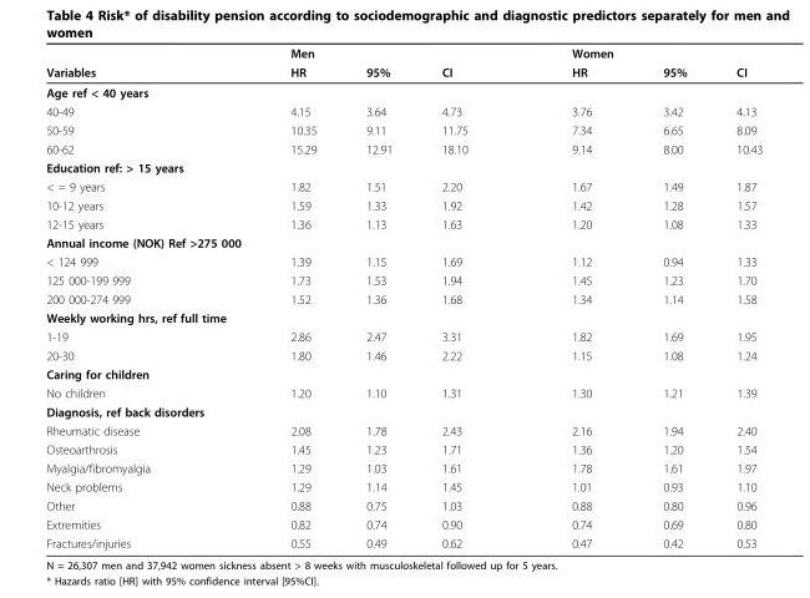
<table><thead><tr><td rowspan="2">Variables</td><td rowspan="2">Men HR</td><td rowspan="2">95%</td><td rowspan="2">CI</td><td rowspan="2">Women HR</td><td rowspan="2">95%</td><td rowspan="2">CI</td></tr><tr></tr></thead><tbody><tr><td colspan="7">Age ref &lt; 40 years</td></tr><tr><td>40-49</td><td>4.15</td><td>3.64</td><td>4.73</td><td>3.76</td><td>3.42</td><td>4.13</td></tr><tr><td>50-59</td><td>10.35</td><td>9.11</td><td>11.75</td><td>7.34</td><td>6.65</td><td>8.09</td></tr><tr><td>60-62</td><td>15.29</td><td>12.91</td><td>18.10</td><td>9.14</td><td>8.00</td><td>10.43</td></tr><tr><td colspan="7">Education ref: &gt; 15 years</td></tr><tr><td>&lt; = 9 years</td><td>1.82</td><td>1.51</td><td>2.20</td><td>1.67</td><td>1.49</td><td>1.87</td></tr><tr><td>10-12 years</td><td>1.59</td><td>1.33</td><td>1.92</td><td>1.42</td><td>1.28</td><td>1.57</td></tr><tr><td>12-15 years</td><td>1.36</td><td>1.13</td><td>1.63</td><td>1.20</td><td>1.08</td><td>1.33</td></tr><tr><td colspan="7">Annual income (NOK) Ref &gt;275 000</td></tr><tr><td>&lt; 124 999</td><td>1.39</td><td>1.15</td><td>1.69</td><td>1.12</td><td>0.94</td><td>1.33</td></tr><tr><td>125 000-199 999</td><td>1.73</td><td>1.53</td><td>1.94</td><td>1.45</td><td>1.23</td><td>1.70</td></tr><tr><td>200 000-274 999</td><td>1.52</td><td>1.36</td><td>1.68</td><td>1.34</td><td>1.14</td><td>1.58</td></tr><tr><td colspan="7">Weekly working hrs, ref full time</td></tr><tr><td>1-19</td><td>2.86</td><td>2.47</td><td>3.31</td><td>1.82</td><td>1.69</td><td>1.95</td></tr><tr><td>20-30</td><td>1.80</td><td>1.46</td><td>2.22</td><td>1.15</td><td>1.08</td><td>1.24</td></tr><tr><td colspan="7">Caring for children</td></tr><tr><td>No children</td><td>1.20</td><td>1.10</td><td>1.31</td><td>1.30</td><td>1.21</td><td>1.39</td></tr><tr><td colspan="7">Diagnosis, ref back disorders</td></tr><tr><td>Rheumatic disease</td><td>2.08</td><td>1.78</td><td>2.43</td><td>2.16</td><td>1.94</td><td>2.40</td></tr><tr><td>Osteoarthrosis</td><td>1.45</td><td>1.23</td><td>1.71</td><td>1.36</td><td>1.20</td><td>1.54</td></tr><tr><td>Myalgia/fibromyalgia</td><td>1.29</td><td>1.03</td><td>1.61</td><td>1.78</td><td>1.61</td><td>1.97</td></tr><tr><td>Neck problems</td><td>1.29</td><td>1.14</td><td>1.45</td><td>1.01</td><td>0.93</td><td>1.10</td></tr><tr><td>Other</td><td>0.88</td><td>0.75</td><td>1.03</td><td>0.88</td><td>0.80</td><td>0.96</td></tr><tr><td>Extremities</td><td>0.82</td><td>0.74</td><td>0.90</td><td>0.74</td><td>0.69</td><td>0.80</td></tr><tr><td>Fractures/injuries</td><td>0.55</td><td>0.49</td><td>0.62</td><td>0.47</td><td>0.42</td><td>0.53</td></tr></tbody></table>